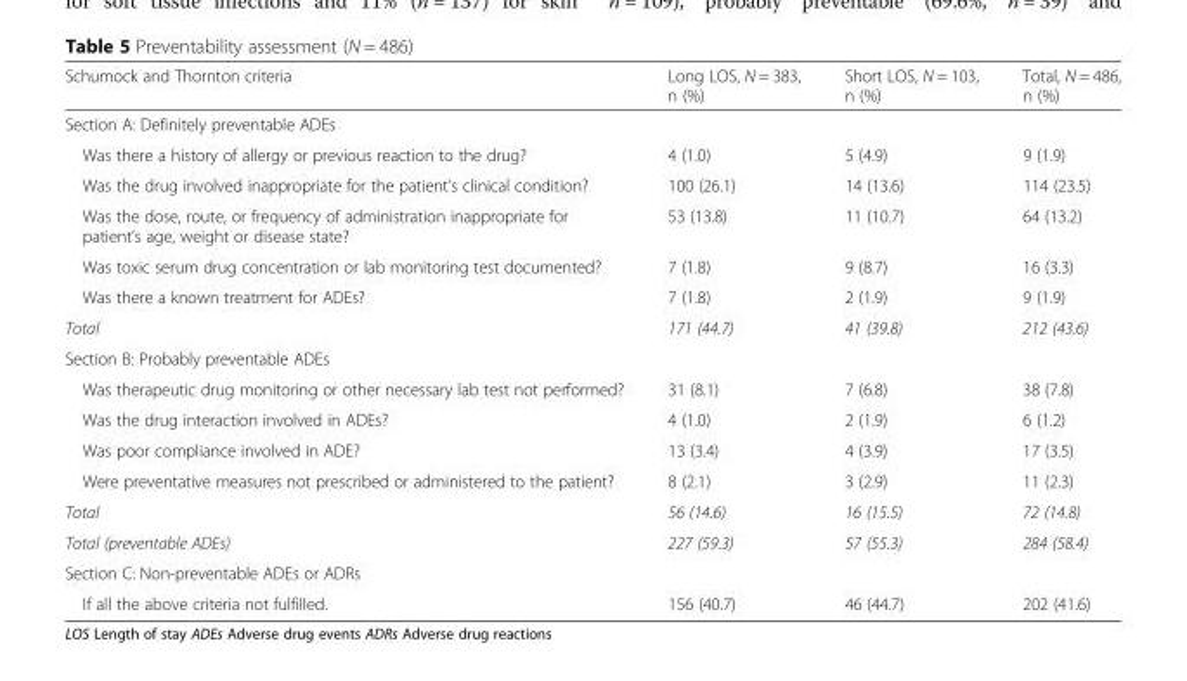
<table><thead><tr><td>Schumock and Thornton criteria</td><td>Long LOS, N = 383, n (%)</td><td>Short LOS, N = 103, n (%)</td><td>Total, N = 486, n (%)</td></tr></thead><tbody><tr><td colspan="4">Section A: Definitely preventable ADEs</td></tr><tr><td>Was there a history of allergy or previous reaction to the drug?</td><td>4 (1.0)</td><td>5 (4.9)</td><td>9 (1.9)</td></tr><tr><td>Was the drug involved inappropriate for the patient’s clinical condition?</td><td>100 (26.1)</td><td>14 (13.6)</td><td>114 (23.5)</td></tr><tr><td>Was the dose, route, or frequency of administration inappropriate for patient’s age, weight or disease state?</td><td>53 (13.8)</td><td>11 (10.7)</td><td>64 (13.2)</td></tr><tr><td>Was toxic serum drug concentration or lab monitoring test documented?</td><td>7 (1.8)</td><td>9 (8.7)</td><td>16 (3.3)</td></tr><tr><td>Was there a known treatment for ADEs?</td><td>7 (1.8)</td><td>2 (1.9)</td><td>9 (1.9)</td></tr><tr><td>Total</td><td>171 (44.7)</td><td>41 (39.8)</td><td>212 (43.6)</td></tr><tr><td colspan="4">Section B: Probably preventable ADEs</td></tr><tr><td>Was therapeutic drug monitoring or other necessary lab test not performed?</td><td>31 (8.1)</td><td>7 (6.8)</td><td>38 (7.8)</td></tr><tr><td>Was the drug interaction involved in ADEs?</td><td>4 (1.0)</td><td>2 (1.9)</td><td>6 (1.2)</td></tr><tr><td>Was poor compliance involved in ADE?</td><td>13 (3.4)</td><td>4 (3.9)</td><td>17 (3.5)</td></tr><tr><td>Were preventative measures not prescribed or administered to the patient?</td><td>8 (2.1)</td><td>3 (2.9)</td><td>11 (2.3)</td></tr><tr><td>Total</td><td>56 (14.6)</td><td>16 (15.5)</td><td>72 (14.8)</td></tr><tr><td>Total (preventable ADEs)</td><td>227 (59.3)</td><td>57 (55.3)</td><td>284 (58.4)</td></tr><tr><td colspan="4">Section C: Non-preventable ADEs or ADRs</td></tr><tr><td>If all the above criteria not fulfilled.</td><td>156 (40.7)</td><td>46 (44.7)</td><td>202 (41.6)</td></tr></tbody></table>